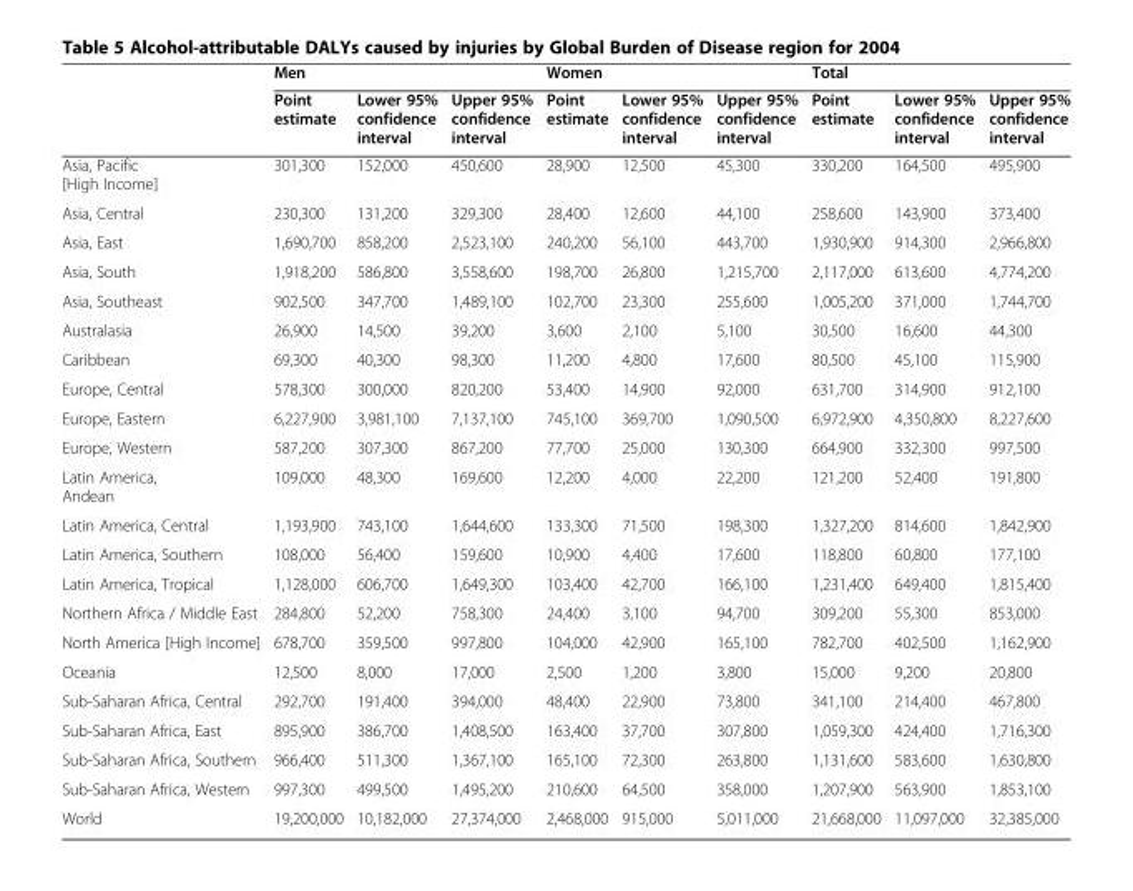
<table><thead><tr><td rowspan="2"></td><td colspan="3">Men</td><td colspan="3">Women</td><td colspan="3">Total</td></tr><tr><td>Point estimate</td><td>Lower 95% confidence interval</td><td>Upper 95% confidence interval</td><td>Point estimate</td><td>Lower 95% confidence interval</td><td>Upper 95% confidence interval</td><td>Point estimate</td><td>Lower 95% confidence interval</td><td>Upper 95% confidence interval</td></tr></thead><tbody><tr><td>Asia, Pacific [High Income]</td><td>301,300</td><td>152,000</td><td>450,600</td><td>28,900</td><td>12,500</td><td>45,300</td><td>330,200</td><td>164,500</td><td>495,900</td></tr><tr><td>Asia, Central</td><td>230,300</td><td>131,200</td><td>329,300</td><td>28,400</td><td>12,600</td><td>44,100</td><td>258,600</td><td>143,900</td><td>373,400</td></tr><tr><td>Asia, East</td><td>1,690,700</td><td>858,200</td><td>2,523,100</td><td>240,200</td><td>56,100</td><td>443,700</td><td>1,930,900</td><td>914,300</td><td>2,966,800</td></tr><tr><td>Asia, South</td><td>1,918,200</td><td>586,800</td><td>3,558,600</td><td>198,700</td><td>26,800</td><td>1,215,700</td><td>2,117,000</td><td>613,600</td><td>4,774,200</td></tr><tr><td>Asia, Southeast</td><td>902,500</td><td>347,700</td><td>1,489,100</td><td>102,700</td><td>23,300</td><td>255,600</td><td>1,005,200</td><td>371,000</td><td>1,744,700</td></tr><tr><td>Australasia</td><td>26,900</td><td>14,500</td><td>39,200</td><td>3,600</td><td>2,100</td><td>5,100</td><td>30,500</td><td>16,600</td><td>44,300</td></tr><tr><td>Caribbean</td><td>69,300</td><td>40,300</td><td>98,300</td><td>11,200</td><td>4,800</td><td>17,600</td><td>80,500</td><td>45,100</td><td>115,900</td></tr><tr><td>Europe, Central</td><td>578,300</td><td>300,000</td><td>820,200</td><td>53,400</td><td>14,900</td><td>92,000</td><td>631,700</td><td>314,900</td><td>912,100</td></tr><tr><td>Europe, Eastern</td><td>6,227,900</td><td>3,981,100</td><td>7,137,100</td><td>745,100</td><td>369,700</td><td>1,090,500</td><td>6,972,900</td><td>4,350,800</td><td>8,227,600</td></tr><tr><td>Europe, Western</td><td>587,200</td><td>307,300</td><td>867,200</td><td>77,700</td><td>25,000</td><td>130,300</td><td>664,900</td><td>332,300</td><td>997,500</td></tr><tr><td>Latin America, Andean</td><td>109,000</td><td>48,300</td><td>169,600</td><td>12,200</td><td>4,000</td><td>22,200</td><td>121,200</td><td>52,400</td><td>191,800</td></tr><tr><td>Latin America, Central</td><td>1,193,900</td><td>743,100</td><td>1,644,600</td><td>133,300</td><td>71,500</td><td>198,300</td><td>1,327,200</td><td>814,600</td><td>1,842,900</td></tr><tr><td>Latin America, Southern</td><td>108,000</td><td>56,400</td><td>159,600</td><td>10,900</td><td>4,400</td><td>17,600</td><td>118,800</td><td>60,800</td><td>177,100</td></tr><tr><td>Latin America, Tropical</td><td>1,128,000</td><td>606,700</td><td>1,649,300</td><td>103,400</td><td>42,700</td><td>166,100</td><td>1,231,400</td><td>649,400</td><td>1,815,400</td></tr><tr><td>Northern Africa / Middle East</td><td>284,800</td><td>52,200</td><td>758,300</td><td>24,400</td><td>3,100</td><td>94,700</td><td>309,200</td><td>55,300</td><td>853,000</td></tr><tr><td>North America [High Income]</td><td>678,700</td><td>359,500</td><td>997,800</td><td>104,000</td><td>42,900</td><td>165,100</td><td>782,700</td><td>402,500</td><td>1,162,900</td></tr><tr><td>Oceania</td><td>12,500</td><td>8,000</td><td>17,000</td><td>2,500</td><td>1,200</td><td>3,800</td><td>15,000</td><td>9,200</td><td>20,800</td></tr><tr><td>Sub-Saharan Africa, Central</td><td>292,700</td><td>191,400</td><td>394,000</td><td>48,400</td><td>22,900</td><td>73,800</td><td>341,100</td><td>214,400</td><td>467,800</td></tr><tr><td>Sub-Saharan Africa, East</td><td>895,900</td><td>386,700</td><td>1,408,500</td><td>163,400</td><td>37,700</td><td>307,800</td><td>1,059,300</td><td>424,400</td><td>1,716,300</td></tr><tr><td>Sub-Saharan Africa, Southern</td><td>966,400</td><td>511,300</td><td>1,367,100</td><td>165,100</td><td>72,300</td><td>263,800</td><td>1,131,600</td><td>583,600</td><td>1,630,800</td></tr><tr><td>Sub-Saharan Africa, Western</td><td>997,300</td><td>499,500</td><td>1,495,200</td><td>210,600</td><td>64,500</td><td>358,000</td><td>1,207,900</td><td>563,900</td><td>1,853,100</td></tr><tr><td>World</td><td>19,200,000</td><td>10,182,000</td><td>27,374,000</td><td>2,468,000</td><td>915,000</td><td>5,011,000</td><td>21,668,000</td><td>11,097,000</td><td>32,385,000</td></tr></tbody></table>